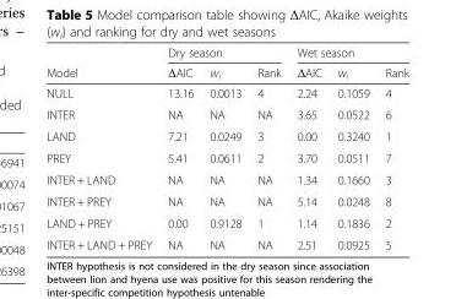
<table><thead><tr><td rowspan="2">Model</td><td colspan="3">Dry season</td><td colspan="3">Wet season</td></tr><tr><td>ΔAIC</td><td>w<sub>i</sub></td><td>Rank</td><td>ΔAIC</td><td>w<sub>i</sub></td><td>Rank</td></tr></thead><tbody><tr><td>NULL</td><td>13.16</td><td>0.0013</td><td>4</td><td>2.24</td><td>0.1059</td><td>4</td></tr><tr><td>INTER</td><td>NA</td><td>NA</td><td>NA</td><td>3.65</td><td>0.0522</td><td>6</td></tr><tr><td>LAND</td><td>7.21</td><td>0.0249</td><td>3</td><td>0.00</td><td>0.3240</td><td>1</td></tr><tr><td>PREY</td><td>5.41</td><td>0.0611</td><td>2</td><td>3.70</td><td>0.0511</td><td>7</td></tr><tr><td>INTER + LAND</td><td>NA</td><td>NA</td><td>NA</td><td>1.34</td><td>0.1660</td><td>3</td></tr><tr><td>INTER + PREY</td><td>NA</td><td>NA</td><td>NA</td><td>5.14</td><td>0.0248</td><td>8</td></tr><tr><td>LAND + PREY</td><td>0.00</td><td>0.9128</td><td>1</td><td>1.14</td><td>0.1836</td><td>2</td></tr><tr><td>INTER + LAND + PREY</td><td>NA</td><td>NA</td><td>NA</td><td>2.51</td><td>0.0925</td><td>5</td></tr></tbody></table>